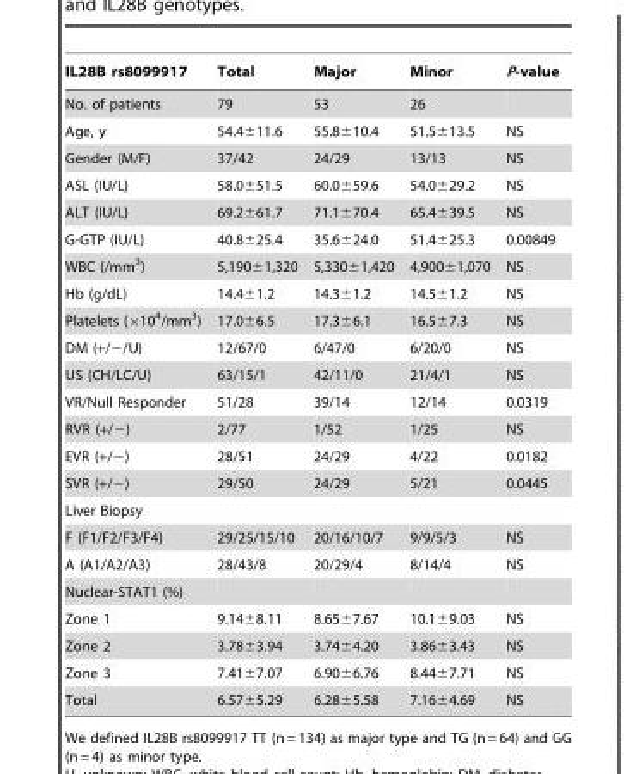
<table><thead><tr><td>IL28B rs8099917</td><td>Total</td><td>Major</td><td>Minor</td><td>P-value</td></tr></thead><tbody><tr><td>No. of patients</td><td>79</td><td>53</td><td>26</td><td></td></tr><tr><td>Age, y</td><td>54.4±11.6</td><td>55.8±10.4</td><td>51.5±13.5</td><td>NS</td></tr><tr><td>Gender (M/F)</td><td>37/42</td><td>24/29</td><td>13/13</td><td>NS</td></tr><tr><td>ASL (IU/L)</td><td>58.0±51.5</td><td>60.0±59.6</td><td>54.0±29.2</td><td>NS</td></tr><tr><td>ALT (IU/L)</td><td>69.2±61.7</td><td>71.1±70.4</td><td>65.4±39.5</td><td>NS</td></tr><tr><td>G-GTP (IU/L)</td><td>40.8±25.4</td><td>35.6±24.0</td><td>51.4±25.3</td><td>0.00849</td></tr><tr><td>WBC (/mm<sup>3</sup>)</td><td>5,190±1,320</td><td>5,330±1,420</td><td>4,900±1,070</td><td>NS</td></tr><tr><td>Hb (g/dL)</td><td>14.4±1.2</td><td>14.3±1.2</td><td>14.5±1.2</td><td>NS</td></tr><tr><td>Platelets (×10<sup>4</sup>/mm<sup>3</sup>)</td><td>17.0±6.5</td><td>17.3±6.1</td><td>16.5±7.3</td><td>NS</td></tr><tr><td>DM (+/−/U)</td><td>12/67/0</td><td>6/47/0</td><td>6/20/0</td><td>NS</td></tr><tr><td>US (CH/LC/U)</td><td>63/15/1</td><td>42/11/0</td><td>21/4/1</td><td>NS</td></tr><tr><td>VR/Null Responder</td><td>51/28</td><td>39/14</td><td>12/14</td><td>0.0319</td></tr><tr><td>RVR (+/−)</td><td>2/77</td><td>1/52</td><td>1/25</td><td>NS</td></tr><tr><td>EVR (+/−)</td><td>28/51</td><td>24/29</td><td>4/22</td><td>0.0182</td></tr><tr><td>SVR (+/−)</td><td>29/50</td><td>24/29</td><td>5/21</td><td>0.0445</td></tr><tr><td colspan="5">Liver Biopsy</td></tr><tr><td>F (F1/F2/F3/F4)</td><td>29/25/15/10</td><td>20/16/10/7</td><td>9/9/5/3</td><td>NS</td></tr><tr><td>A (A1/A2/A3)</td><td>28/43/8</td><td>20/29/4</td><td>8/14/4</td><td>NS</td></tr><tr><td colspan="5">Nuclear-STAT1 (%)</td></tr><tr><td>Zone 1</td><td>9.14±8.11</td><td>8.65±7.67</td><td>10.1±9.03</td><td>NS</td></tr><tr><td>Zone 2</td><td>3.78±3.94</td><td>3.74±4.20</td><td>3.86±3.43</td><td>NS</td></tr><tr><td>Zone 3</td><td>7.41±7.07</td><td>6.90±6.76</td><td>8.44±7.71</td><td>NS</td></tr><tr><td>Total</td><td>6.57±5.29</td><td>6.28±5.58</td><td>7.16±4.69</td><td>NS</td></tr></tbody></table>